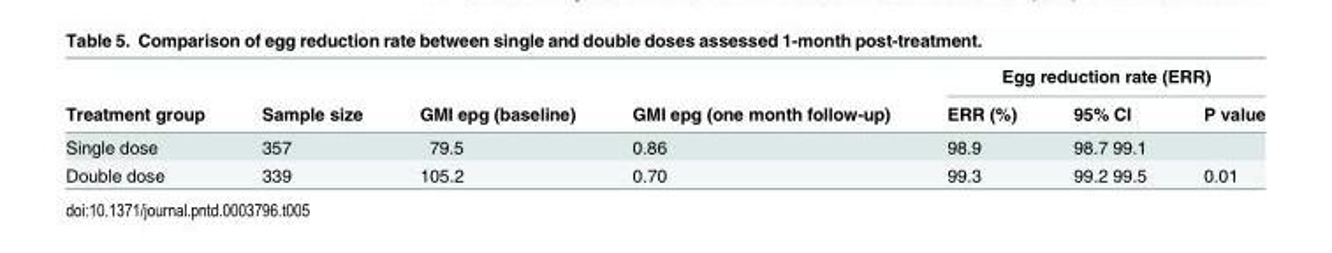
<table><thead><tr><td rowspan="2">Treatment group</td><td rowspan="2">Sample size</td><td rowspan="2">GMI epg (baseline)</td><td rowspan="2">GMI epg (one month follow-up)</td><td colspan="3">Egg reduction rate (ERR)</td></tr><tr><td>ERR (%)</td><td>95% CI</td><td>P value</td></tr></thead><tbody><tr><td>Single dose</td><td>357</td><td>79.5</td><td>0.86</td><td>98.9</td><td>98.7 99.1</td><td></td></tr><tr><td>Double dose</td><td>339</td><td>105.2</td><td>0.70</td><td>99.3</td><td>99.2 99.5</td><td>0.01</td></tr></tbody></table>